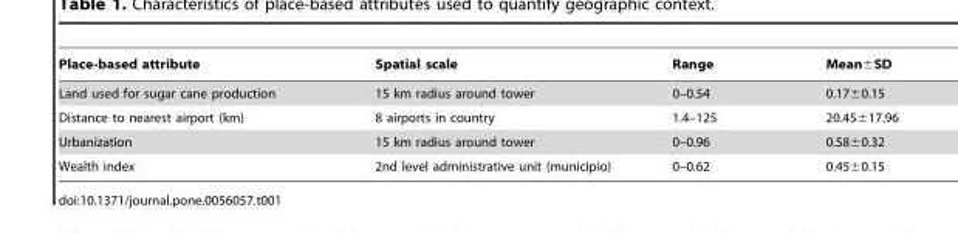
<table><thead><tr><td>Place-based attribute</td><td>Spatial scale</td><td>Range</td><td>Mean±SD</td></tr></thead><tbody><tr><td>Land used for sugar cane production</td><td>15 km radius around tower</td><td>0–0.54</td><td>0.17±0.15</td></tr><tr><td>Distance to nearest airport (km)</td><td>8 airports in country</td><td>1.4–125</td><td>20.45±17.96</td></tr><tr><td>Urbanization</td><td>15 km radius around tower</td><td>0–0.96</td><td>0.58±0.32</td></tr><tr><td>Wealth index</td><td>2nd level administrative unit (municipio)</td><td>0–0.62</td><td>0.45±0.15</td></tr></tbody></table>